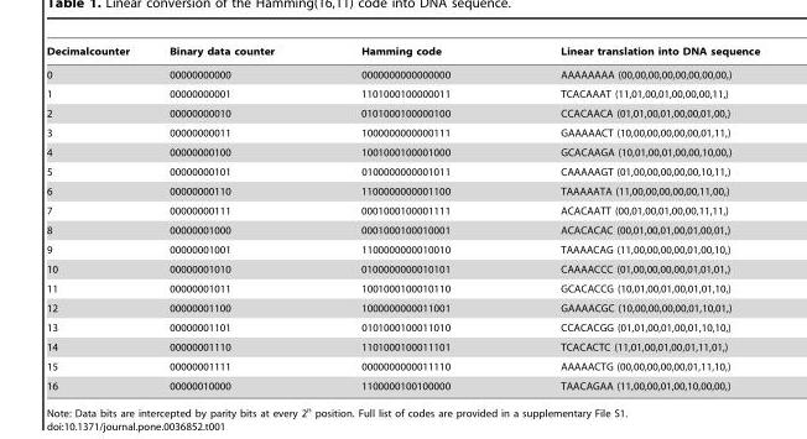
<table><thead><tr><td>Decimalcounter</td><td>Binary data counter</td><td>Hamming code</td><td>Linear translation into DNA sequence</td></tr></thead><tbody><tr><td>0</td><td>00000000000</td><td>0000000000000000</td><td>AAAAAAAA (00,00,00,00,00,00,00,00,)</td></tr><tr><td>1</td><td>00000000001</td><td>1101000100000011</td><td>TCACAAAT (11,01,00,01,00,00,00,11,)</td></tr><tr><td>2</td><td>00000000010</td><td>0101000100000100</td><td>CCACAACA (01,01,00,01,00,00,01,00,)</td></tr><tr><td>3</td><td>00000000011</td><td>1000000000000111</td><td>GAAAAACT (10,00,00,00,00,00,01,11,)</td></tr><tr><td>4</td><td>00000000100</td><td>1001000100001000</td><td>GCACAAGA (10,01,00,01,00,00,10,00,)</td></tr><tr><td>5</td><td>00000000101</td><td>0100000000001011</td><td>CAAAAAGT (01,00,00,00,00,00,10,11,)</td></tr><tr><td>6</td><td>00000000110</td><td>1100000000001100</td><td>TAAAAATA (11,00,00,00,00,00,11,00,)</td></tr><tr><td>7</td><td>00000000111</td><td>0001000100001111</td><td>ACACAATT (00,01,00,01,00,00,11,11,)</td></tr><tr><td>8</td><td>00000001000</td><td>0001000100010001</td><td>ACACACAC (00,01,00,01,00,01,00,01,)</td></tr><tr><td>9</td><td>00000001001</td><td>1100000000010010</td><td>TAAAACAG (11,00,00,00,00,01,00,10,)</td></tr><tr><td>10</td><td>00000001010</td><td>0100000000010101</td><td>CAAAACCC (01,00,00,00,00,01,01,01,)</td></tr><tr><td>11</td><td>00000001011</td><td>1001000100010110</td><td>GCACACCG (10,01,00,01,00,01,01,10,)</td></tr><tr><td>12</td><td>00000001100</td><td>1000000000011001</td><td>GAAAACGC (10,00,00,00,00,01,10,01,)</td></tr><tr><td>13</td><td>00000001101</td><td>0101000100011010</td><td>CCACACGG (01,01,00,01,00,01,10,10,)</td></tr><tr><td>14</td><td>00000001110</td><td>1101000100011101</td><td>TCACACTC (11,01,00,01,00,01,11,01,)</td></tr><tr><td>15</td><td>00000001111</td><td>0000000000011110</td><td>AAAAACTG (00,00,00,00,00,01,11,10,)</td></tr><tr><td>16</td><td>00000010000</td><td>1100000100100000</td><td>TAACAGAA (11,00,00,01,00,10,00,00,)</td></tr></tbody></table>